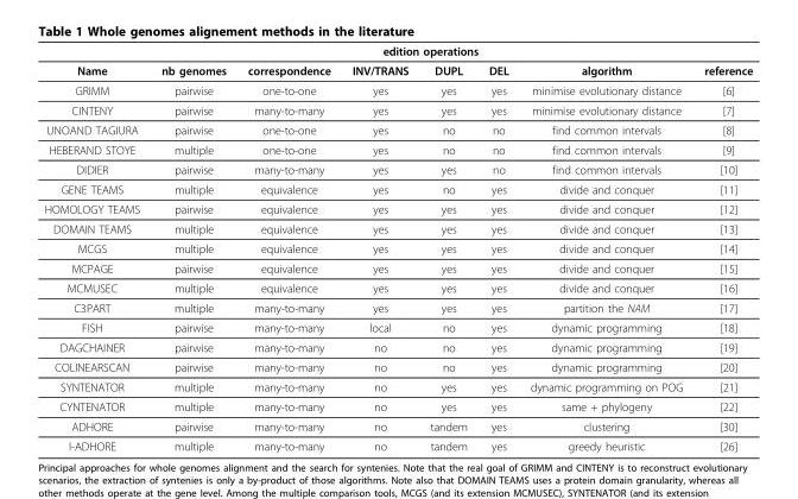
<table><thead><tr><td rowspan="2">Name</td><td rowspan="2">nb genomes</td><td rowspan="2">correspondence</td><td colspan="3">edition operations</td><td rowspan="2">algorithm</td><td rowspan="2">reference</td></tr><tr><td>INV/TRANS</td><td>DUPL</td><td>DEL</td></tr></thead><tbody><tr><td>GRIMM</td><td>pairwise</td><td>one-to-one</td><td>yes</td><td>yes</td><td>yes</td><td>minimise evolutionary distance</td><td>[6]</td></tr><tr><td>CINTENY</td><td>pairwise</td><td>many-to-many</td><td>yes</td><td>yes</td><td>yes</td><td>minimise evolutionary distance</td><td>[7]</td></tr><tr><td>UNOAND TAGIURA</td><td>pairwise</td><td>one-to-one</td><td>yes</td><td>no</td><td>no</td><td>find common intervals</td><td>[8]</td></tr><tr><td>HEBERAND STOYE</td><td>multiple</td><td>one-to-one</td><td>yes</td><td>no</td><td>no</td><td>find common intervals</td><td>[9]</td></tr><tr><td>DIDIER</td><td>pairwise</td><td>many-to-many</td><td>yes</td><td>yes</td><td>no</td><td>find common intervals</td><td>[10]</td></tr><tr><td>GENE TEAMS</td><td>multiple</td><td>equivalence</td><td>yes</td><td>no</td><td>yes</td><td>divide and conquer</td><td>[11]</td></tr><tr><td>HOMOLOGY TEAMS</td><td>pairwise</td><td>equivalence</td><td>yes</td><td>yes</td><td>yes</td><td>divide and conquer</td><td>[12]</td></tr><tr><td>DOMAIN TEAMS</td><td>multiple</td><td>equivalence</td><td>yes</td><td>yes</td><td>yes</td><td>divide and conquer</td><td>[13]</td></tr><tr><td>MCGS</td><td>multiple</td><td>equivalence</td><td>yes</td><td>yes</td><td>yes</td><td>divide and conquer</td><td>[14]</td></tr><tr><td>MCPAGE</td><td>pairwise</td><td>equivalence</td><td>yes</td><td>yes</td><td>yes</td><td>divide and conquer</td><td>[15]</td></tr><tr><td>MCMUSEC</td><td>multiple</td><td>equivalence</td><td>yes</td><td>yes</td><td>yes</td><td>divide and conquer</td><td>[16]</td></tr><tr><td>C3PART</td><td>multiple</td><td>many-to-many</td><td>yes</td><td>yes</td><td>yes</td><td>partition the NAM</td><td>[17]</td></tr><tr><td>FISH</td><td>pairwise</td><td>many-to-many</td><td>local</td><td>no</td><td>yes</td><td>dynamic programming</td><td>[18]</td></tr><tr><td>DAGCHAINER</td><td>pairwise</td><td>many-to-many</td><td>no</td><td>no</td><td>yes</td><td>dynamic programming</td><td>[19]</td></tr><tr><td>COLINEARSCAN</td><td>pairwise</td><td>many-to-many</td><td>no</td><td>no</td><td>yes</td><td>dynamic programming</td><td>[20]</td></tr><tr><td>SYNTENATOR</td><td>multiple</td><td>many-to-many</td><td>no</td><td>yes</td><td>yes</td><td>dynamic programming on POG</td><td>[21]</td></tr><tr><td>CYNTENATOR</td><td>multiple</td><td>many-to-many</td><td>no</td><td>yes</td><td>yes</td><td>same + phylogeny</td><td>[22]</td></tr><tr><td>ADHORE</td><td>pairwise</td><td>many-to-many</td><td>no</td><td>tandem</td><td>yes</td><td>clustering</td><td>[30]</td></tr><tr><td>I-ADHORE</td><td>multiple</td><td>many-to-many</td><td>no</td><td>tandem</td><td>yes</td><td>greedy heuristic</td><td>[26]</td></tr></tbody></table>